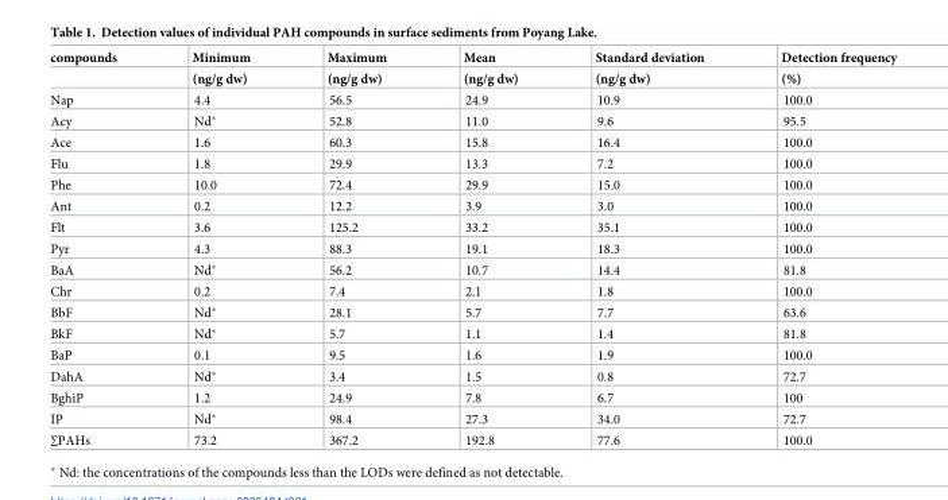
<table><thead><tr><td rowspan="2">compounds</td><td rowspan="2">Minimum (ng/g dw)</td><td rowspan="2">Maximum (ng/g dw)</td><td rowspan="2">Mean (ng/g dw)</td><td rowspan="2">Standard deviation (ng/g dw)</td><td rowspan="2">Detection frequency (%)</td></tr><tr></tr></thead><tbody><tr><td>Nap</td><td>4.4</td><td>56.5</td><td>24.9</td><td>10.9</td><td>100.0</td></tr><tr><td>Acy</td><td>Nd*</td><td>52.8</td><td>11.0</td><td>9.6</td><td>95.5</td></tr><tr><td>Ace</td><td>1.6</td><td>60.3</td><td>15.8</td><td>16.4</td><td>100.0</td></tr><tr><td>Flu</td><td>1.8</td><td>29.9</td><td>13.3</td><td>7.2</td><td>100.0</td></tr><tr><td>Phe</td><td>10.0</td><td>72.4</td><td>29.9</td><td>15.0</td><td>100.0</td></tr><tr><td>Ant</td><td>0.2</td><td>12.2</td><td>3.9</td><td>3.0</td><td>100.0</td></tr><tr><td>Flt</td><td>3.6</td><td>125.2</td><td>33.2</td><td>35.1</td><td>100.0</td></tr><tr><td>Pyr</td><td>4.3</td><td>88.3</td><td>19.1</td><td>18.3</td><td>100.0</td></tr><tr><td>BaA</td><td>Nd*</td><td>56.2</td><td>10.7</td><td>14.4</td><td>81.8</td></tr><tr><td>Chr</td><td>0.2</td><td>7.4</td><td>2.1</td><td>1.8</td><td>100.0</td></tr><tr><td>BbF</td><td>Nd*</td><td>28.1</td><td>5.7</td><td>7.7</td><td>63.6</td></tr><tr><td>BkF</td><td>Nd*</td><td>5.7</td><td>1.1</td><td>1.4</td><td>81.8</td></tr><tr><td>BaP</td><td>0.1</td><td>9.5</td><td>1.6</td><td>1.9</td><td>100.0</td></tr><tr><td>DahA</td><td>Nd*</td><td>3.4</td><td>1.5</td><td>0.8</td><td>72.7</td></tr><tr><td>BghiP</td><td>1.2</td><td>24.9</td><td>7.8</td><td>6.7</td><td>100</td></tr><tr><td>IP</td><td>Nd*</td><td>98.4</td><td>27.3</td><td>34.0</td><td>72.7</td></tr><tr><td>∑PAHs</td><td>73.2</td><td>367.2</td><td>192.8</td><td>77.6</td><td>100.0</td></tr></tbody></table>